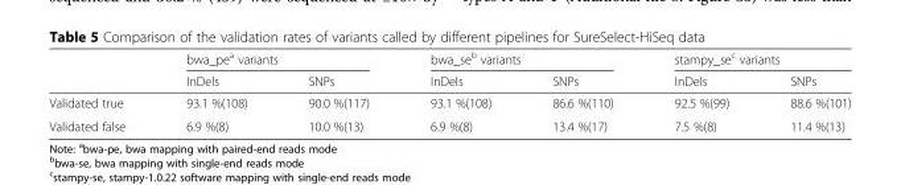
<table><thead><tr><td rowspan="2"></td><td colspan="2">bwa_pe<sup>a</sup> variants</td><td colspan="2">bwa_se<sup>b</sup> variants</td><td colspan="2">stampy_se<sup>c</sup> variants</td></tr><tr><td>InDels</td><td>SNPs</td><td>InDels</td><td>SNPs</td><td>InDels</td><td>SNPs</td></tr></thead><tbody><tr><td>Validated true</td><td>93.1 %(108)</td><td>90.0 %(117)</td><td>93.1 %(108)</td><td>86.6 %(110)</td><td>92.5 %(99)</td><td>88.6 %(101)</td></tr><tr><td>Validated false</td><td>6.9 %(8)</td><td>10.0 %(13)</td><td>6.9 %(8)</td><td>13.4 %(17)</td><td>7.5 %(8)</td><td>11.4 %(13)</td></tr></tbody></table>